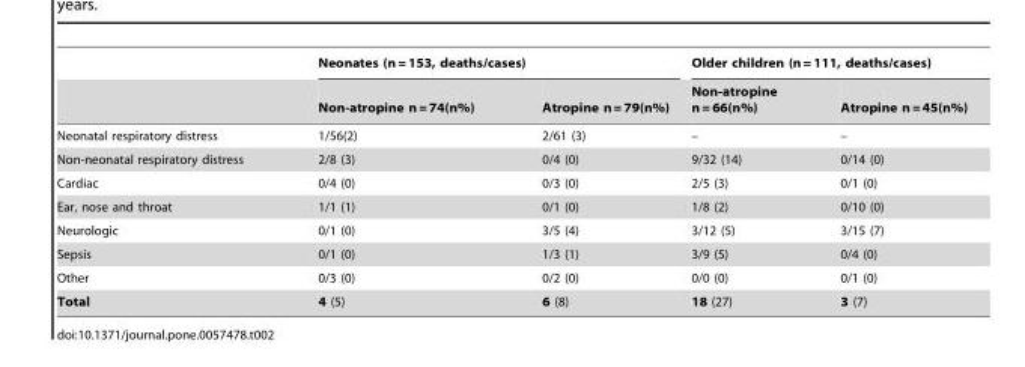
<table><thead><tr><td rowspan="2"></td><td colspan="2">Neonates (n = 153, deaths/cases)</td><td colspan="2">Older children (n = 111, deaths/cases)</td></tr><tr><td>Non-atropine n = 74(n%)</td><td>Atropine n = 79(n%)</td><td>Non-atropine n = 66(n%)</td><td>Atropine n = 45(n%)</td></tr></thead><tbody><tr><td>Neonatal respiratory distress</td><td>1/56(2)</td><td>2/61 (3)</td><td>–</td><td>–</td></tr><tr><td>Non-neonatal respiratory distress</td><td>2/8 (3)</td><td>0/4 (0)</td><td>9/32 (14)</td><td>0/14 (0)</td></tr><tr><td>Cardiac</td><td>0/4 (0)</td><td>0/3 (0)</td><td>2/5 (3)</td><td>0/1 (0)</td></tr><tr><td>Ear, nose and throat</td><td>1/1 (1)</td><td>0/1 (0)</td><td>1/8 (2)</td><td>0/10 (0)</td></tr><tr><td>Neurologic</td><td>0/1 (0)</td><td>3/5 (4)</td><td>3/12 (5)</td><td>3/15 (7)</td></tr><tr><td>Sepsis</td><td>0/1 (0)</td><td>1/3 (1)</td><td>3/9 (5)</td><td>0/4 (0)</td></tr><tr><td>Other</td><td>0/3 (0)</td><td>0/2 (0)</td><td>0/0 (0)</td><td>0/1 (0)</td></tr><tr><td>Total</td><td>4 (5)</td><td>6 (8)</td><td>18 (27)</td><td>3 (7)</td></tr></tbody></table>